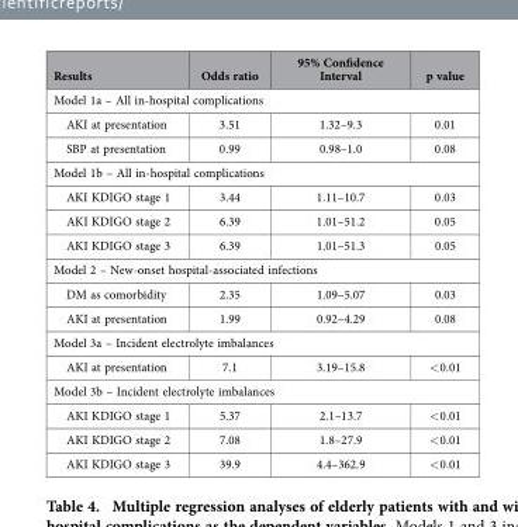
<table><thead><tr><td>Results</td><td>Odds ratio</td><td>95% Confidence Interval</td><td>p value</td></tr></thead><tbody><tr><td colspan="4">Model 1a – All in-hospital complications</td></tr><tr><td>AKI at presentation</td><td>3.51</td><td>1.32–9.3</td><td>0.01</td></tr><tr><td>SBP at presentation</td><td>0.99</td><td>0.98–1.0</td><td>0.08</td></tr><tr><td colspan="4">Model 1b – All in-hospital complications</td></tr><tr><td>AKI KDIGO stage 1</td><td>3.44</td><td>1.11–10.7</td><td>0.03</td></tr><tr><td>AKI KDIGO stage 2</td><td>6.39</td><td>1.01–51.2</td><td>0.05</td></tr><tr><td>AKI KDIGO stage 3</td><td>6.39</td><td>1.01–51.3</td><td>0.05</td></tr><tr><td colspan="4">Model 2 – New-onset hospital-associated infections</td></tr><tr><td>DM as comorbidity</td><td>2.35</td><td>1.09–5.07</td><td>0.03</td></tr><tr><td>AKI at presentation</td><td>1.99</td><td>0.92–4.29</td><td>0.08</td></tr><tr><td colspan="4">Model 3a – Incident electrolyte imbalances</td></tr><tr><td>AKI at presentation</td><td>7.1</td><td>3.19–15.8</td><td>&lt; 0.01</td></tr><tr><td colspan="4">Model 3b – Incident electrolyte imbalances</td></tr><tr><td>AKI KDIGO stage 1</td><td>5.37</td><td>2.1–13.7</td><td>&lt; 0.01</td></tr><tr><td>AKI KDIGO stage 2</td><td>7.08</td><td>1.8–27.9</td><td>&lt; 0.01</td></tr><tr><td>AKI KDIGO stage 3</td><td>39.9</td><td>4.4–362.9</td><td>&lt; 0.01</td></tr></tbody></table>